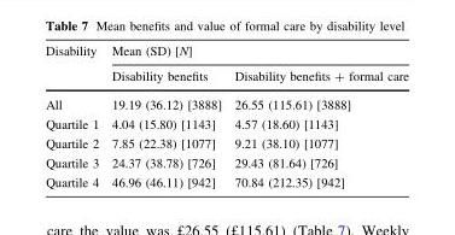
<table><thead><tr><td rowspan="2">Disability</td><td colspan="2">Mean (SD) [N]</td></tr><tr><td>Disability benefits</td><td>Disability benefits + formal care</td></tr></thead><tbody><tr><td>All</td><td>19.19 (36.12) [3888]</td><td>26.55 (115.61) [3888]</td></tr><tr><td>Quartile 1</td><td>4.04 (15.80) [1143]</td><td>4.57 (18.60) [1143]</td></tr><tr><td>Quartile 2</td><td>7.85 (22.38) [1077]</td><td>9.21 (38.10) [1077]</td></tr><tr><td>Quartile 3</td><td>24.37 (38.78) [726]</td><td>29.43 (81.64) [726]</td></tr><tr><td>Quartile 4</td><td>46.96 (46.11) [942]</td><td>70.84 (212.35) [942]</td></tr></tbody></table>